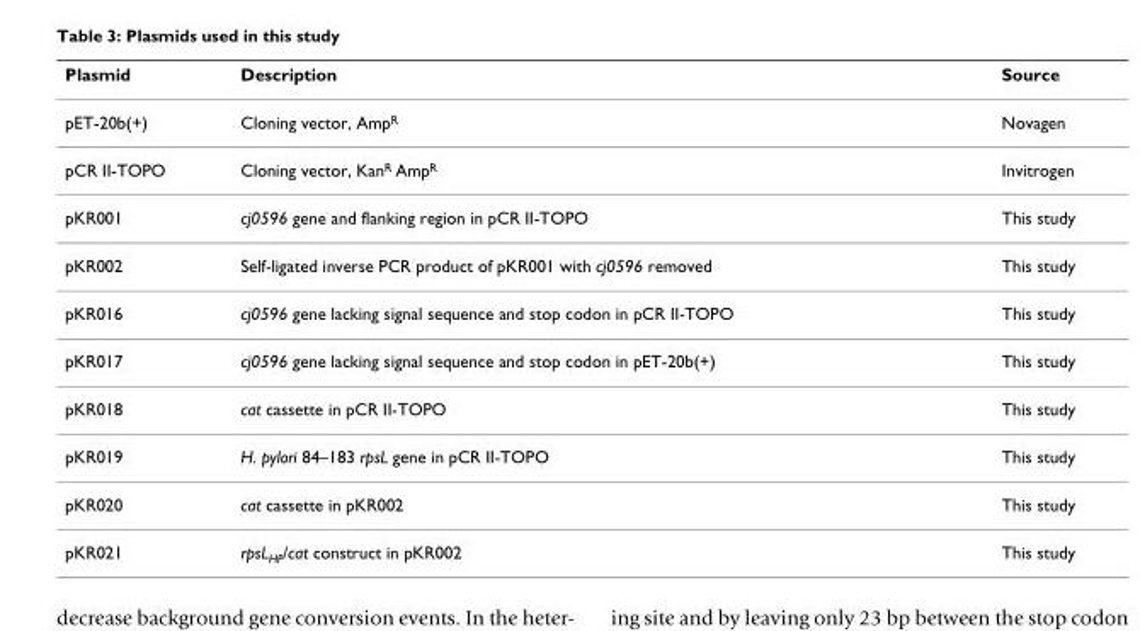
<table><thead><tr><td>Plasmid</td><td>Description</td><td>Source</td></tr></thead><tbody><tr><td>pET-20b(+)</td><td>Cloning vector, Amp<sup>R</sup></td><td>Novagen</td></tr><tr><td>pCR II-TOPO</td><td>Cloning vector, Kan<sup>R</sup> Amp<sup>R</sup></td><td>Invitrogen</td></tr><tr><td>pKR001</td><td>cj0596 gene and flanking region in pCR II-TOPO</td><td>This study</td></tr><tr><td>pKR002</td><td>Self-ligated inverse PCR product of pKR001 with cj0596 removed</td><td>This study</td></tr><tr><td>pKR016</td><td>cj0596 gene lacking signal sequence and stop codon in pCR II-TOPO</td><td>This study</td></tr><tr><td>pKR017</td><td>cj0596 gene lacking signal sequence and stop codon in pET-20b(+)</td><td>This study</td></tr><tr><td>pKR018</td><td>cat cassette in pCR II-TOPO</td><td>This study</td></tr><tr><td>pKR019</td><td>H. pylori 84–183 rpsL gene in pCR II-TOPO</td><td>This study</td></tr><tr><td>pKR020</td><td>cat cassette in pKR002</td><td>This study</td></tr><tr><td>pKR021</td><td>rpsL<sub>HP</sub>/cat construct in pKR002</td><td>This study</td></tr></tbody></table>